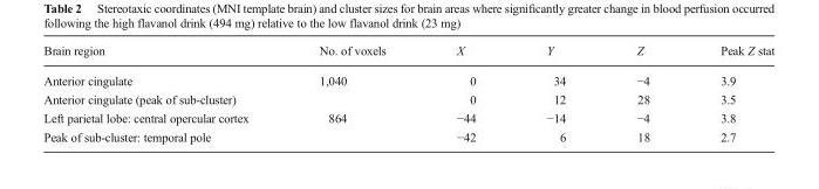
<table><thead><tr><td>Brain region</td><td>No. of voxels</td><td>X</td><td>Y</td><td>Z</td><td>Peak Z stat</td></tr></thead><tbody><tr><td>Anterior cingulate</td><td>1,040</td><td>0</td><td>34</td><td>−4</td><td>3.9</td></tr><tr><td>Anterior cingulate (peak of sub-cluster)</td><td></td><td>0</td><td>12</td><td>28</td><td>3.5</td></tr><tr><td>Left parietal lobe: central opercular cortex</td><td>864</td><td>−44</td><td>−14</td><td>−4</td><td>3.8</td></tr><tr><td>Peak of sub-cluster: temporal pole</td><td></td><td>−42</td><td>6</td><td>18</td><td>2.7</td></tr></tbody></table>